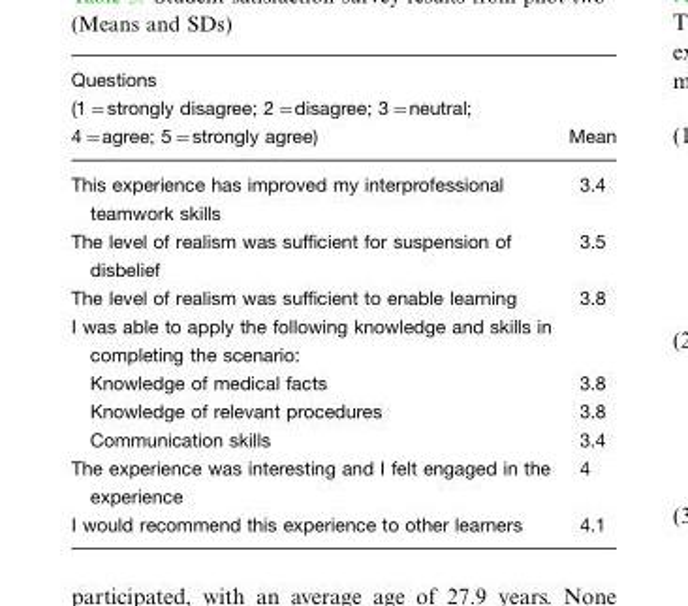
<table><thead><tr><td>Questions (1=strongly disagree; 2=disagree; 3=neutral; 4=agree; 5=strongly agree)</td><td>Mean</td></tr></thead><tbody><tr><td>This experience has improved my interprofessional teamwork skills</td><td>3.4</td></tr><tr><td>The level of realism was sufficient for suspension of disbelief</td><td>3.5</td></tr><tr><td>The level of realism was sufficient to enable learning</td><td>3.8</td></tr><tr><td colspan="2">I was able to apply the following knowledge and skills in completing the scenario:</td></tr><tr><td>Knowledge of medical facts</td><td>3.8</td></tr><tr><td>Knowledge of relevant procedures</td><td>3.8</td></tr><tr><td>Communication skills</td><td>3.4</td></tr><tr><td>The experience was interesting and I felt engaged in the experience</td><td>4</td></tr><tr><td>I would recommend this experience to other learners</td><td>4.1</td></tr></tbody></table>